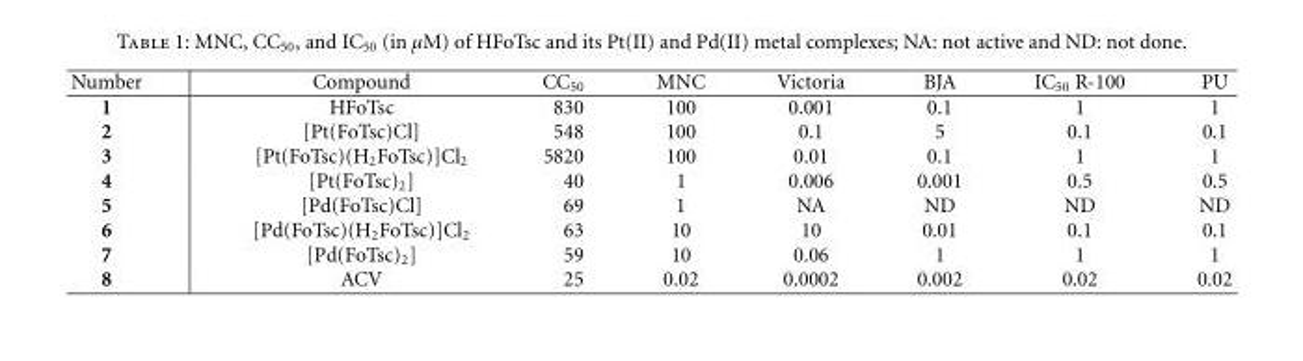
<table><tbody><tr><td>Number</td><td>Compound</td><td>CC<sub>50</sub></td><td>MNC</td><td>Victoria</td><td>BJA</td><td>IC<sub>50</sub> R-100</td><td>PU</td></tr><tr><td>1</td><td>HFoTsc</td><td>830</td><td>100</td><td>0.001</td><td>0.1</td><td>1</td><td>1</td></tr><tr><td>2</td><td>[Pt(FoTsc)Cl]</td><td>548</td><td>100</td><td>0.1</td><td>5</td><td>0.1</td><td>0.1</td></tr><tr><td>3</td><td>[Pt(FoTsc)(H<sub>2</sub>FoTsc)]Cl<sub>2</sub></td><td>5820</td><td>100</td><td>0.01</td><td>0.1</td><td>1</td><td>1</td></tr><tr><td>4</td><td>[Pt(FoTsc)<sub>2</sub>]</td><td>40</td><td>1</td><td>0.006</td><td>0.001</td><td>0.5</td><td>0.5</td></tr><tr><td>5</td><td>[Pd(FoTsc)Cl]</td><td>69</td><td>1</td><td>NA</td><td>ND</td><td>ND</td><td>ND</td></tr><tr><td>6</td><td>[Pd(FoTsc)(H<sub>2</sub>FoTsc)]Cl<sub>2</sub></td><td>63</td><td>10</td><td>10</td><td>0.01</td><td>0.1</td><td>0.1</td></tr><tr><td>7</td><td>[Pd(FoTsc)<sub>2</sub>]</td><td>59</td><td>10</td><td>0.06</td><td>1</td><td>1</td><td>1</td></tr><tr><td>8</td><td>ACV</td><td>25</td><td>0.02</td><td>0.0002</td><td>0.002</td><td>0.02</td><td>0.02</td></tr></tbody></table>